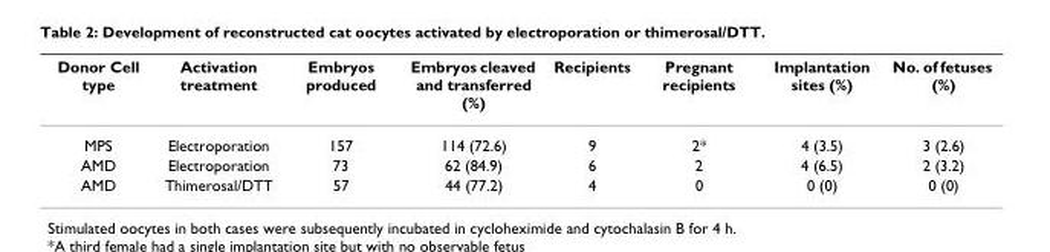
<table><thead><tr><td>Donor Cell type</td><td>Activation treatment</td><td>Embryos produced</td><td>Embryos cleaved and transferred (%)</td><td>Recipients</td><td>Pregnant recipients</td><td>Implantation sites (%)</td><td>No. of fetuses (%)</td></tr></thead><tbody><tr><td>MPS</td><td>Electroporation</td><td>157</td><td>114 (72.6)</td><td>9</td><td>2*</td><td>4 (3.5)</td><td>3 (2.6)</td></tr><tr><td>AMD</td><td>Electroporation</td><td>73</td><td>62 (84.9)</td><td>6</td><td>2</td><td>4 (6.5)</td><td>2 (3.2)</td></tr><tr><td>AMD</td><td>Thimerosal/DTT</td><td>57</td><td>44 (77.2)</td><td>4</td><td>0</td><td>0 (0)</td><td>0 (0)</td></tr></tbody></table>